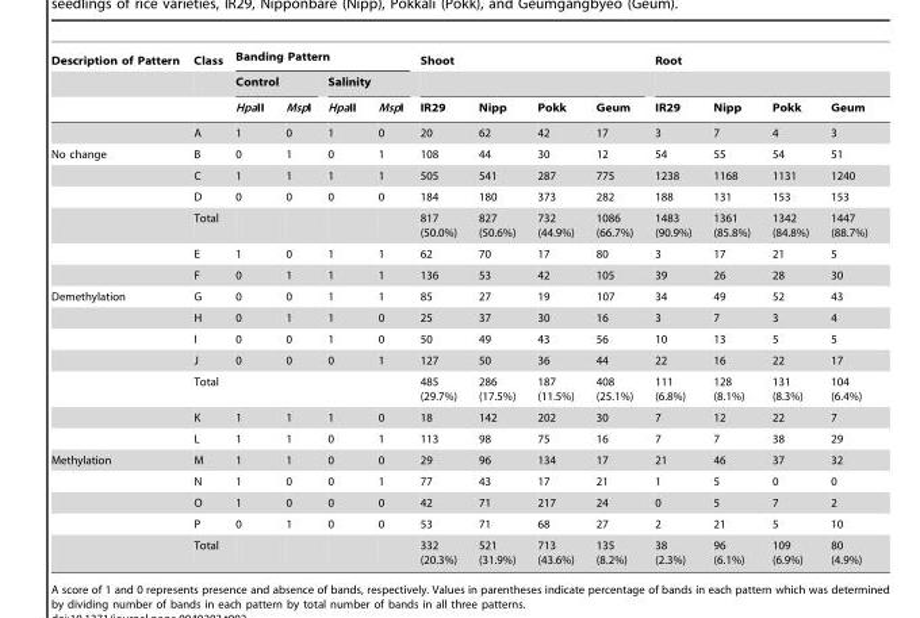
<table><thead><tr><td rowspan="3">Description of Pattern</td><td rowspan="3">Class</td><td colspan="4">Banding Pattern</td><td colspan="4">Shoot</td><td colspan="4">Root</td></tr><tr><td colspan="2">Control</td><td colspan="2">Salinity</td><td rowspan="2">IR29</td><td rowspan="2">Nipp</td><td rowspan="2">Pokk</td><td rowspan="2">Geum</td><td rowspan="2">IR29</td><td rowspan="2">Nipp</td><td rowspan="2">Pokk</td><td rowspan="2">Geum</td></tr><tr><td>HpaII</td><td>MspI</td><td>HpaII</td><td>MspI</td></tr></thead><tbody><tr><td></td><td>A</td><td>1</td><td>0</td><td>1</td><td>0</td><td>20</td><td>62</td><td>42</td><td>17</td><td>3</td><td>7</td><td>4</td><td>3</td></tr><tr><td rowspan="6">No change</td><td>B</td><td>0</td><td>1</td><td>0</td><td>1</td><td>108</td><td>44</td><td>30</td><td>12</td><td>54</td><td>55</td><td>54</td><td>51</td></tr><tr><td>C</td><td>1</td><td>1</td><td>1</td><td>1</td><td>505</td><td>541</td><td>287</td><td>775</td><td>1238</td><td>1168</td><td>1131</td><td>1240</td></tr><tr><td>D</td><td>0</td><td>0</td><td>0</td><td>0</td><td>184</td><td>180</td><td>373</td><td>282</td><td>188</td><td>131</td><td>153</td><td>153</td></tr><tr><td>Total</td><td></td><td></td><td></td><td></td><td>817 (50.0%)</td><td>827 (50.6%)</td><td>732 (44.9%)</td><td>1086 (66.7%)</td><td>1483 (90.9%)</td><td>1361 (85.8%)</td><td>1342 (84.8%)</td><td>1447 (88.7%)</td></tr><tr><td>E</td><td>1</td><td>0</td><td>1</td><td>1</td><td>62</td><td>70</td><td>17</td><td>80</td><td>3</td><td>17</td><td>21</td><td>5</td></tr><tr><td>F</td><td>0</td><td>1</td><td>1</td><td>1</td><td>136</td><td>53</td><td>42</td><td>105</td><td>39</td><td>26</td><td>28</td><td>30</td></tr><tr><td rowspan="7">Demethylation</td><td>G</td><td>0</td><td>0</td><td>1</td><td>1</td><td>85</td><td>27</td><td>19</td><td>107</td><td>34</td><td>49</td><td>52</td><td>43</td></tr><tr><td>H</td><td>0</td><td>1</td><td>1</td><td>0</td><td>25</td><td>37</td><td>30</td><td>16</td><td>3</td><td>7</td><td>3</td><td>4</td></tr><tr><td>I</td><td>0</td><td>0</td><td>1</td><td>0</td><td>50</td><td>49</td><td>43</td><td>56</td><td>10</td><td>13</td><td>5</td><td>5</td></tr><tr><td>J</td><td>0</td><td>0</td><td>0</td><td>1</td><td>127</td><td>50</td><td>36</td><td>44</td><td>22</td><td>16</td><td>22</td><td>17</td></tr><tr><td>Total</td><td></td><td></td><td></td><td></td><td>485 (29.7%)</td><td>286 (17.5%)</td><td>187 (11.5%)</td><td>408 (25.1%)</td><td>111 (6.8%)</td><td>128 (8.1%)</td><td>131 (8.3%)</td><td>104 (6.4%)</td></tr><tr><td>K</td><td>1</td><td>1</td><td>1</td><td>0</td><td>18</td><td>142</td><td>202</td><td>30</td><td>7</td><td>12</td><td>22</td><td>7</td></tr><tr><td>L</td><td>1</td><td>1</td><td>0</td><td>1</td><td>113</td><td>98</td><td>75</td><td>16</td><td>7</td><td>7</td><td>38</td><td>29</td></tr><tr><td rowspan="5">Methylation</td><td>M</td><td>1</td><td>1</td><td>0</td><td>0</td><td>29</td><td>96</td><td>134</td><td>17</td><td>21</td><td>46</td><td>37</td><td>32</td></tr><tr><td>N</td><td>1</td><td>0</td><td>0</td><td>1</td><td>77</td><td>43</td><td>17</td><td>21</td><td>1</td><td>5</td><td>0</td><td>0</td></tr><tr><td>O</td><td>1</td><td>0</td><td>0</td><td>0</td><td>42</td><td>71</td><td>217</td><td>24</td><td>0</td><td>5</td><td>7</td><td>2</td></tr><tr><td>P</td><td>0</td><td>1</td><td>0</td><td>0</td><td>53</td><td>71</td><td>68</td><td>27</td><td>2</td><td>21</td><td>5</td><td>10</td></tr><tr><td>Total</td><td></td><td></td><td></td><td></td><td>332 (20.3%)</td><td>521 (31.9%)</td><td>713 (43.6%)</td><td>135 (8.2%)</td><td>38 (2.3%)</td><td>96 (6.1%)</td><td>109 (6.9%)</td><td>80 (4.9%)</td></tr></tbody></table>